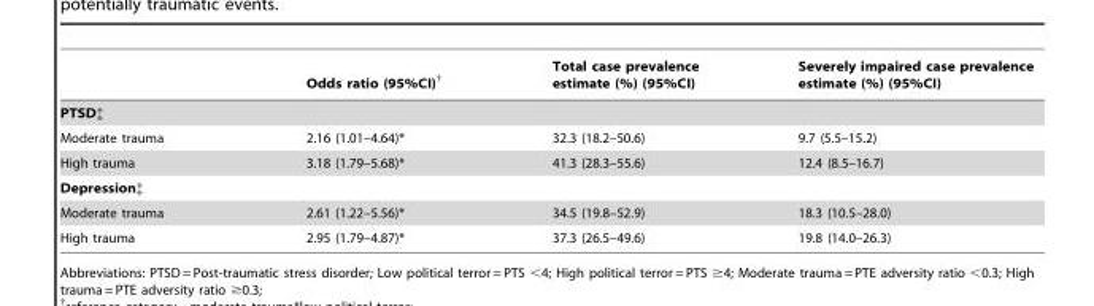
<table><thead><tr><td></td><td>Odds ratio (95%CI)†</td><td>Total case prevalence estimate (%) (95%CI)</td><td>Severely impaired case prevalence estimate (%) (95%CI)</td></tr></thead><tbody><tr><td colspan="4">PTSD‡</td></tr><tr><td>Moderate trauma</td><td>2.16 (1.01–4.64)*</td><td>32.3 (18.2–50.6)</td><td>9.7 (5.5–15.2)</td></tr><tr><td>High trauma</td><td>3.18 (1.79–5.68)*</td><td>41.3 (28.3–55.6)</td><td>12.4 (8.5–16.7)</td></tr><tr><td colspan="4">Depression‡</td></tr><tr><td>Moderate trauma</td><td>2.61 (1.22–5.56)*</td><td>34.5 (19.8–52.9)</td><td>18.3 (10.5–28.0)</td></tr><tr><td>High trauma</td><td>2.95 (1.79–4.87)*</td><td>37.3 (26.5–49.6)</td><td>19.8 (14.0–26.3)</td></tr></tbody></table>